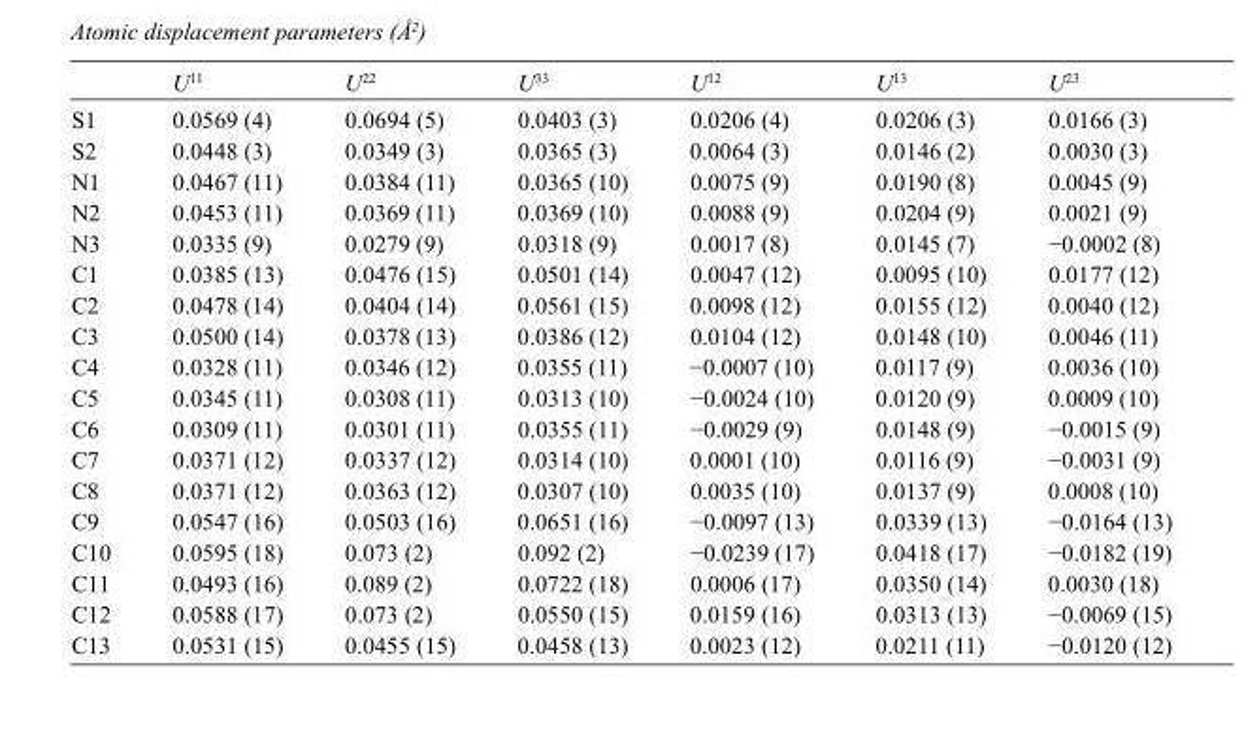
<table><thead><tr><td></td><td>U<sup>11</sup></td><td>U<sup>22</sup></td><td>U<sup>33</sup></td><td>U<sup>12</sup></td><td>U<sup>13</sup></td><td>U<sup>23</sup></td></tr></thead><tbody><tr><td>S1</td><td>0.0569 (4)</td><td>0.0694 (5)</td><td>0.0403 (3)</td><td>0.0206 (4)</td><td>0.0206 (3)</td><td>0.0166 (3)</td></tr><tr><td>S2</td><td>0.0448 (3)</td><td>0.0349 (3)</td><td>0.0365 (3)</td><td>0.0064 (3)</td><td>0.0146 (2)</td><td>0.0030 (3)</td></tr><tr><td>N1</td><td>0.0467 (11)</td><td>0.0384 (11)</td><td>0.0365 (10)</td><td>0.0075 (9)</td><td>0.0190 (8)</td><td>0.0045 (9)</td></tr><tr><td>N2</td><td>0.0453 (11)</td><td>0.0369 (11)</td><td>0.0369 (10)</td><td>0.0088 (9)</td><td>0.0204 (9)</td><td>0.0021 (9)</td></tr><tr><td>N3</td><td>0.0335 (9)</td><td>0.0279 (9)</td><td>0.0318 (9)</td><td>0.0017 (8)</td><td>0.0145 (7)</td><td>−0.0002 (8)</td></tr><tr><td>C1</td><td>0.0385 (13)</td><td>0.0476 (15)</td><td>0.0501 (14)</td><td>0.0047 (12)</td><td>0.0095 (10)</td><td>0.0177 (12)</td></tr><tr><td>C2</td><td>0.0478 (14)</td><td>0.0404 (14)</td><td>0.0561 (15)</td><td>0.0098 (12)</td><td>0.0155 (12)</td><td>0.0040 (12)</td></tr><tr><td>C3</td><td>0.0500 (14)</td><td>0.0378 (13)</td><td>0.0386 (12)</td><td>0.0104 (12)</td><td>0.0148 (10)</td><td>0.0046 (11)</td></tr><tr><td>C4</td><td>0.0328 (11)</td><td>0.0346 (12)</td><td>0.0355 (11)</td><td>−0.0007 (10)</td><td>0.0117 (9)</td><td>0.0036 (10)</td></tr><tr><td>C5</td><td>0.0345 (11)</td><td>0.0308 (11)</td><td>0.0313 (10)</td><td>−0.0024 (10)</td><td>0.0120 (9)</td><td>0.0009 (10)</td></tr><tr><td>C6</td><td>0.0309 (11)</td><td>0.0301 (11)</td><td>0.0355 (11)</td><td>−0.0029 (9)</td><td>0.0148 (9)</td><td>−0.0015 (9)</td></tr><tr><td>C7</td><td>0.0371 (12)</td><td>0.0337 (12)</td><td>0.0314 (10)</td><td>0.0001 (10)</td><td>0.0116 (9)</td><td>−0.0031 (9)</td></tr><tr><td>C8</td><td>0.0371 (12)</td><td>0.0363 (12)</td><td>0.0307 (10)</td><td>0.0035 (10)</td><td>0.0137 (9)</td><td>0.0008 (10)</td></tr><tr><td>C9</td><td>0.0547 (16)</td><td>0.0503 (16)</td><td>0.0651 (16)</td><td>−0.0097 (13)</td><td>0.0339 (13)</td><td>−0.0164 (13)</td></tr><tr><td>C10</td><td>0.0595 (18)</td><td>0.073 (2)</td><td>0.092 (2)</td><td>−0.0239 (17)</td><td>0.0418 (17)</td><td>−0.0182 (19)</td></tr><tr><td>C11</td><td>0.0493 (16)</td><td>0.089 (2)</td><td>0.0722 (18)</td><td>0.0006 (17)</td><td>0.0350 (14)</td><td>0.0030 (18)</td></tr><tr><td>C12</td><td>0.0588 (17)</td><td>0.073 (2)</td><td>0.0550 (15)</td><td>0.0159 (16)</td><td>0.0313 (13)</td><td>−0.0069 (15)</td></tr><tr><td>C13</td><td>0.0531 (15)</td><td>0.0455 (15)</td><td>0.0458 (13)</td><td>0.0023 (12)</td><td>0.0211 (11)</td><td>−0.0120 (12)</td></tr></tbody></table>